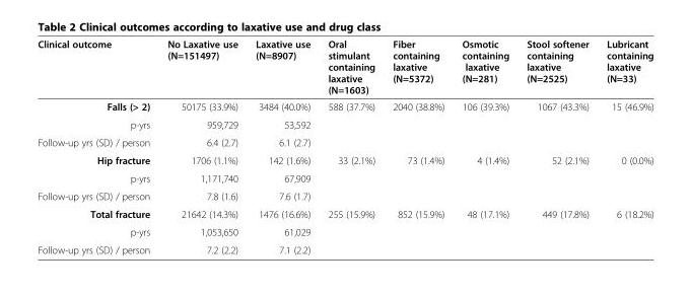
<table><thead><tr><td>Clinical outcome</td><td>No Laxative use (N=151497)</td><td>Laxative use (N=8907)</td><td>Oral stimulant containing laxative (N=1603)</td><td>Fiber containing laxative (N=5372)</td><td>Osmotic containing laxative (N=281)</td><td>Stool softener containing laxative (N=2525)</td><td>Lubricant containing laxative (N=33)</td></tr></thead><tbody><tr><td>Falls (&gt; 2)</td><td>50175 (33.9%)</td><td>3484 (40.0%)</td><td>588 (37.7%)</td><td>2040 (38.8%)</td><td>106 (39.3%)</td><td>1067 (43.3%)</td><td>15 (46.9%)</td></tr><tr><td>p-yrs</td><td>959,729</td><td>53,592</td><td rowspan="2"></td><td rowspan="2"></td><td rowspan="2"></td><td rowspan="2"></td><td rowspan="2"></td></tr><tr><td>Follow-up yrs (SD) / person</td><td>6.4 (2.7)</td><td>6.1 (2.7)</td></tr><tr><td>Hip fracture</td><td>1706 (1.1%)</td><td>142 (1.6%)</td><td>33 (2.1%)</td><td>73 (1.4%)</td><td>4 (1.4%)</td><td>52 (2.1%)</td><td>0 (0.0%)</td></tr><tr><td>p-yrs</td><td>1,171,740</td><td>67,909</td><td rowspan="2"></td><td rowspan="2"></td><td rowspan="2"></td><td rowspan="2"></td><td rowspan="2"></td></tr><tr><td>Follow-up yrs (SD) / person</td><td>7.8 (1.6)</td><td>7.6 (1.7)</td></tr><tr><td>Total fracture</td><td>21642 (14.3%)</td><td>1476 (16.6%)</td><td>255 (15.9%)</td><td>852 (15.9%)</td><td>48 (17.1%)</td><td>449 (17.8%)</td><td>6 (18.2%)</td></tr><tr><td>p-yrs</td><td>1,053,650</td><td>61,029</td><td rowspan="2"></td><td rowspan="2"></td><td rowspan="2"></td><td rowspan="2"></td><td rowspan="2"></td></tr><tr><td>Follow-up yrs (SD) / person</td><td>7.2 (2.2)</td><td>7.1 (2.2)</td></tr></tbody></table>